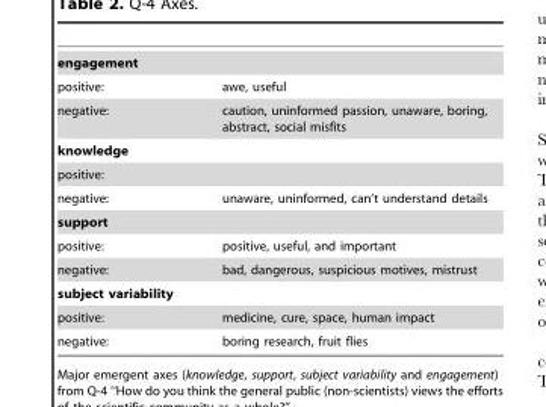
<table><tbody><tr><td colspan="2">engagement</td></tr><tr><td>positive:</td><td>awe, useful</td></tr><tr><td>negative:</td><td>caution, uninformed passion, unaware, boring, abstract, social misfits</td></tr><tr><td colspan="2">knowledge</td></tr><tr><td colspan="2">positive:</td></tr><tr><td>negative:</td><td>unaware, uninformed, can’t understand details</td></tr><tr><td colspan="2">support</td></tr><tr><td>positive:</td><td>positive, useful, and important</td></tr><tr><td>negative:</td><td>bad, dangerous, suspicious motives, mistrust</td></tr><tr><td colspan="2">subject variability</td></tr><tr><td>positive:</td><td>medicine, cure, space, human impact</td></tr><tr><td>negative:</td><td>boring research, fruit flies</td></tr></tbody></table>